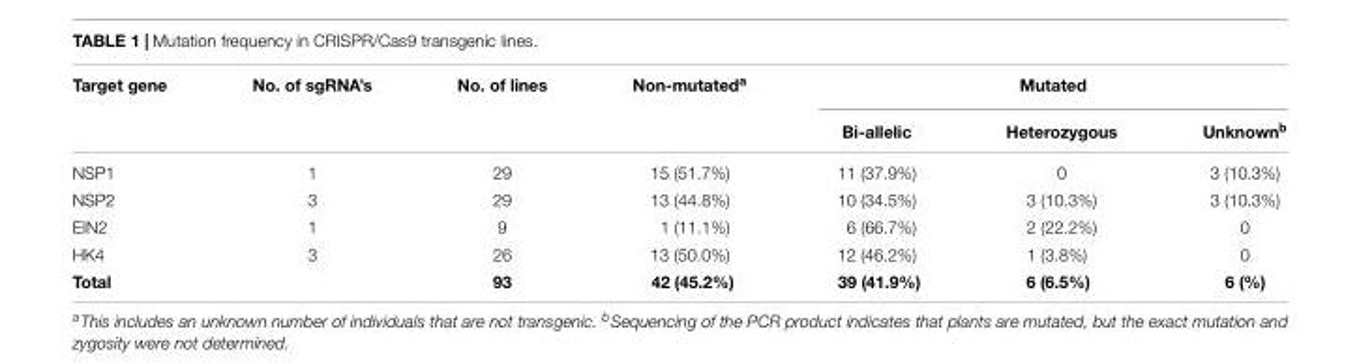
<table><thead><tr><td rowspan="2">Target gene</td><td rowspan="2">No. of sgRNA’s</td><td rowspan="2">No. of lines</td><td rowspan="2">Non-mutated<sup>a</sup></td><td colspan="3">Mutated</td></tr><tr><td>Bi-allelic</td><td>Heterozygous</td><td>Unknown<sup>b</sup></td></tr></thead><tbody><tr><td>NSP1</td><td>1</td><td>29</td><td>15 (51.7%)</td><td>11 (37.9%)</td><td>0</td><td>3 (10.3%)</td></tr><tr><td>NSP2</td><td>3</td><td>29</td><td>13 (44.8%)</td><td>10 (34.5%)</td><td>3 (10.3%)</td><td>3 (10.3%)</td></tr><tr><td>EIN2</td><td>1</td><td>9</td><td>1 (11.1%)</td><td>6 (66.7%)</td><td>2 (22.2%)</td><td>0</td></tr><tr><td>HK4</td><td>3</td><td>26</td><td>13 (50.0%)</td><td>12 (46.2%)</td><td>1 (3.8%)</td><td>0</td></tr><tr><td>Total</td><td></td><td>93</td><td>42 (45.2%)</td><td>39 (41.9%)</td><td>6 (6.5%)</td><td>6 (%)</td></tr></tbody></table>